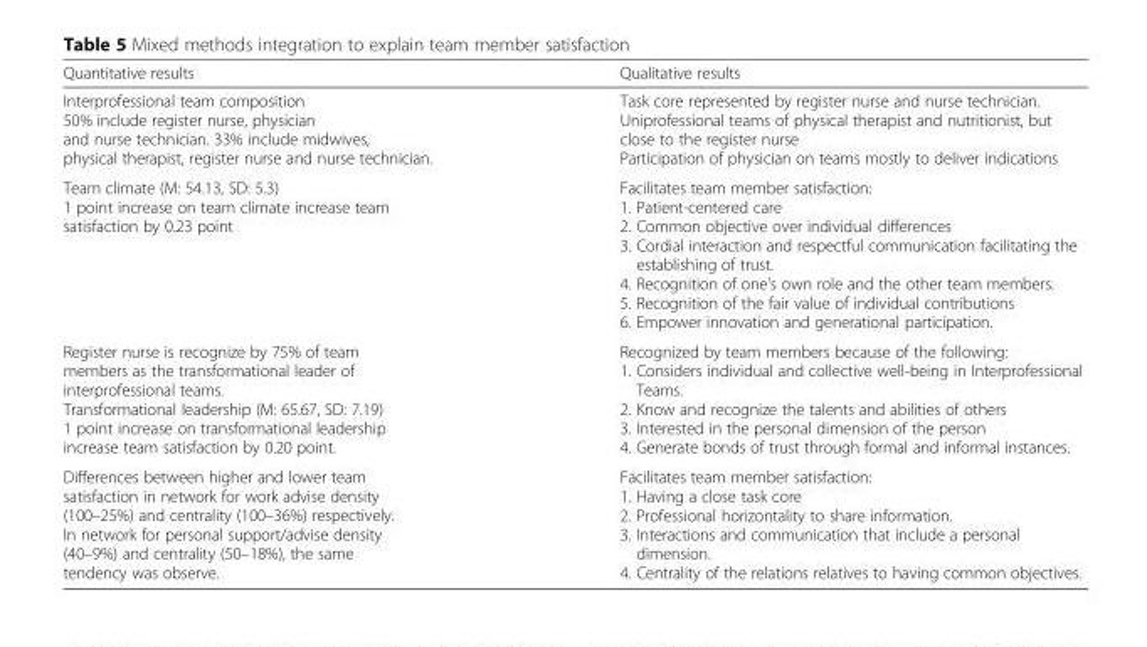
<table><thead><tr><td>Quantitative results</td><td>Qualitative results</td></tr></thead><tbody><tr><td>Interprofessional team composition 50% include register nurse, physician and nurse technician. 33% include midwives, physical therapist, register nurse and nurse technician.</td><td>Task core represented by register nurse and nurse technician. Uniprofessional teams of physical therapist and nutritionist, but close to the register nurse Participation of physician on teams mostly to deliver indications</td></tr><tr><td>Team climate (M: 54.13, SD: 5.3) 1 point increase on team climate increase team satisfaction by 0.23 point</td><td>Facilitates team member satisfaction: 1. Patient-centered care 2. Common objective over individual differences 3. Cordial interaction and respectful communication facilitating the establishing of trust. 4. Recognition of one’s own role and the other team members. 5. Recognition of the fair value of individual contributions 6. Empower innovation and generational participation.</td></tr><tr><td>Register nurse is recognize by 75% of team members as the transformational leader of interprofessional teams. Transformational leadership (M: 65.67, SD: 7.19) 1 point increase on transformational leadership increase team satisfaction by 0.20 point.</td><td>Recognized by team members because of the following: 1. Considers individual and collective well-being in Interprofessional Teams. 2. Know and recognize the talents and abilities of others 3. Interested in the personal dimension of the person 4. Generate bonds of trust through formal and informal instances.</td></tr><tr><td>Differences between higher and lower team satisfaction in network for work advise density (100–25%) and centrality (100–36%) respectively. In network for personal support/advise density (40–9%) and centrality (50–18%), the same tendency was observe.</td><td>Facilitates team member satisfaction: 1. Having a close task core 2. Professional horizontality to share information. 3. Interactions and communication that include a personal dimension. 4. Centrality of the relations relatives to having common objectives.</td></tr></tbody></table>